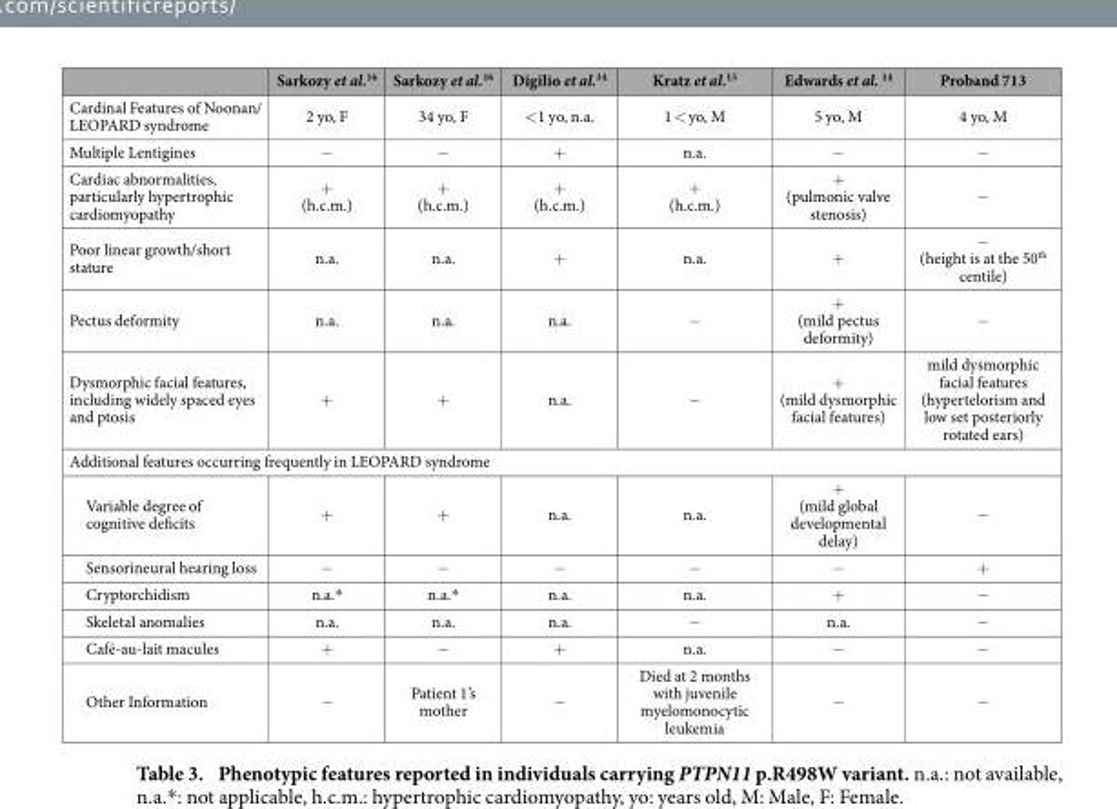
<table><thead><tr><td></td><td>Sarkozy et al.<sup>16</sup></td><td>Sarkozy et al.<sup>16</sup></td><td>Digilio et al.<sup>34</sup></td><td>Kratz et al.<sup>15</sup></td><td>Edwards et al. <sup>14</sup></td><td>Proband 713</td></tr></thead><tbody><tr><td>Cardinal Features of Noonan/ LEOPARD syndrome</td><td>2 yo, F</td><td>34 yo, F</td><td>&lt; 1 yo, n.a.</td><td>1 &lt; yo, M</td><td>5 yo, M</td><td>4 yo, M</td></tr><tr><td>Multiple Lentigines</td><td>−</td><td>−</td><td>+</td><td>n.a.</td><td>−</td><td>−</td></tr><tr><td>Cardiac abnormalities, particularly hypertrophic cardiomyopathy</td><td>+ (h.c.m.)</td><td>+ (h.c.m.)</td><td>+ (h.c.m.)</td><td>+ (h.c.m.)</td><td>+ (pulmonic valve stenosis)</td><td>−</td></tr><tr><td>Poor linear growth/short stature</td><td>n.a.</td><td>n.a.</td><td>+</td><td>n.a.</td><td>+</td><td>− (height is at the 50<sup>th</sup> centile)</td></tr><tr><td>Pectus deformity</td><td>n.a.</td><td>n.a.</td><td>n.a.</td><td>−</td><td>+ (mild pectus deformity)</td><td>−</td></tr><tr><td>Dysmorphic facial features, including widely spaced eyes and ptosis</td><td>+</td><td>+</td><td>n.a.</td><td>−</td><td>+ (mild dysmorphic facial features)</td><td>mild dysmorphic facial features (hypertelorism and low set posteriorly rotated ears)</td></tr><tr><td colspan="7">Additional features occurring frequently in LEOPARD syndrome</td></tr><tr><td>Variable degree of cognitive deficits</td><td>+</td><td>+</td><td>n.a.</td><td>n.a.</td><td>+ (mild global developmental delay)</td><td>−</td></tr><tr><td>Sensorineural hearing loss</td><td>−</td><td>−</td><td>−</td><td>−</td><td>−</td><td>+</td></tr><tr><td>Cryptorchidism</td><td>n.a.*</td><td>n.a.*</td><td>n.a.</td><td>n.a.</td><td>+</td><td>−</td></tr><tr><td>Skeletal anomalies</td><td>n.a.</td><td>n.a.</td><td>n.a.</td><td>−</td><td>n.a.</td><td>−</td></tr><tr><td>Café-au-lait macules</td><td>+</td><td>−</td><td>+</td><td>n.a.</td><td>−</td><td>−</td></tr><tr><td>Other Information</td><td>−</td><td>Patient 1’s mother</td><td>−</td><td>Died at 2 months with juvenile myelomonocytic leukemia</td><td>−</td><td>−</td></tr></tbody></table>